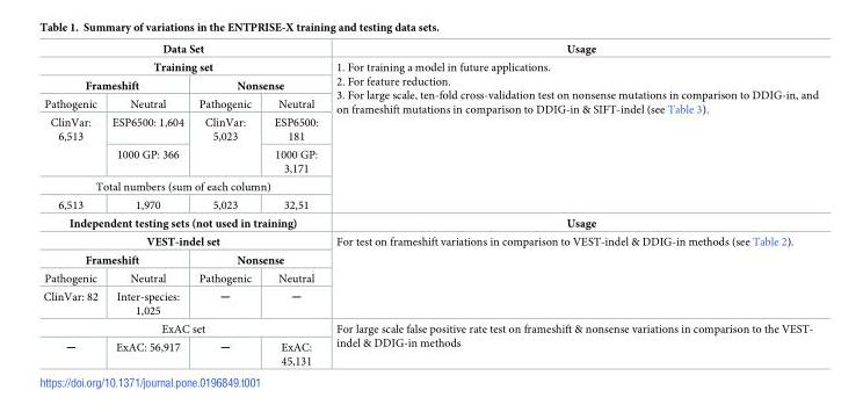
<table><tbody><tr><td colspan="4">Data Set</td><td>Usage</td></tr><tr><td colspan="4">Training set</td><td rowspan="7">1. For training a model in future applications. 2. For feature reduction. 3. For large scale, ten-fold cross-validation test on nonsense mutations in comparison to DDIG-in, and on frameshift mutations in comparison to DDIG-in &amp; SIFT-indel (see Table 3).</td></tr><tr><td colspan="2">Frameshift</td><td colspan="2">Nonsense</td></tr><tr><td>Pathogenic</td><td>Neutral</td><td>Pathogenic</td><td>Neutral</td></tr><tr><td rowspan="2">ClinVar: 6,513</td><td>ESP6500: 1,604</td><td rowspan="2">ClinVar: 5,023</td><td>ESP6500: 181</td></tr><tr><td>1000 GP: 366</td><td>1000 GP: 3,171</td></tr><tr><td colspan="4">Total numbers (sum of each column)</td></tr><tr><td>6,513</td><td>1,970</td><td>5,023</td><td>32,51</td></tr><tr><td colspan="4">Independent testing sets (not used in training)</td><td>Usage</td></tr><tr><td colspan="4">VEST-indel set</td><td rowspan="4">For test on frameshift variations in comparison to VEST-indel &amp; DDIG-in methods (see Table 2).</td></tr><tr><td colspan="2">Frameshift</td><td colspan="2">Nonsense</td></tr><tr><td>Pathogenic</td><td>Neutral</td><td>Pathogenic</td><td>Neutral</td></tr><tr><td>ClinVar: 82</td><td>Inter-species: 1,025</td><td>─</td><td>─</td></tr><tr><td colspan="4">ExAC set</td><td rowspan="2">For large scale false positive rate test on frameshift &amp; nonsense variations in comparison to the VEST- indel &amp; DDIG-in methods</td></tr><tr><td>─</td><td>ExAC: 56,917</td><td>─</td><td>ExAC: 45,131</td></tr></tbody></table>